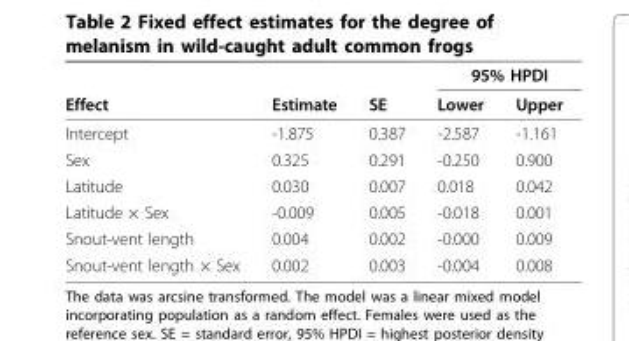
<table><thead><tr><td rowspan="2">Effect</td><td rowspan="2">Estimate</td><td rowspan="2">SE</td><td colspan="2">95% HPDI</td></tr><tr><td>Lower</td><td>Upper</td></tr></thead><tbody><tr><td>Intercept</td><td>-1.875</td><td>0.387</td><td>-2.587</td><td>-1.161</td></tr><tr><td>Sex</td><td>0.325</td><td>0.291</td><td>-0.250</td><td>0.900</td></tr><tr><td>Latitude</td><td>0.030</td><td>0.007</td><td>0.018</td><td>0.042</td></tr><tr><td>Latitude × Sex</td><td>-0.009</td><td>0.005</td><td>-0.018</td><td>0.001</td></tr><tr><td>Snout-vent length</td><td>0.004</td><td>0.002</td><td>-0.000</td><td>0.009</td></tr><tr><td>Snout-vent length × Sex</td><td>0.002</td><td>0.003</td><td>-0.004</td><td>0.008</td></tr></tbody></table>